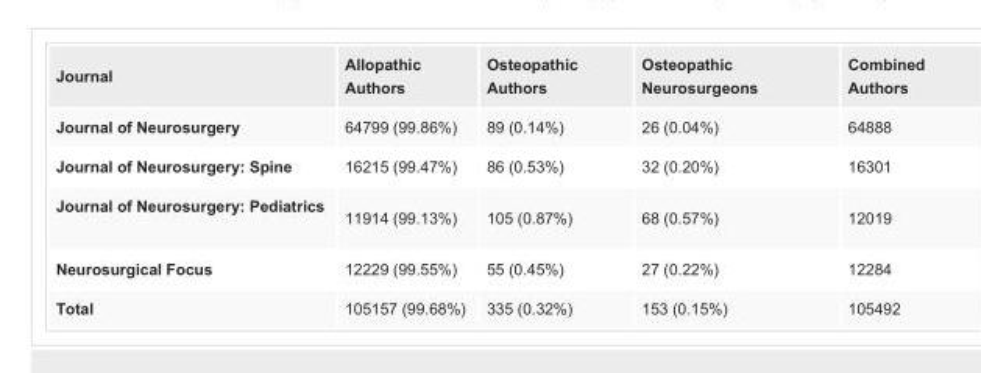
<table><tbody><tr><td>Journal</td><td>Allopathic Authors</td><td>Osteopathic Authors</td><td>Osteopathic Neurosurgeons</td><td>Combined Authors</td></tr><tr><td>Journal of Neurosurgery</td><td>64799 (99.86%)</td><td>89 (0.14%)</td><td>26 (0.04%)</td><td>64888</td></tr><tr><td>Journal of Neurosurgery: Spine</td><td>16215 (99.47%)</td><td>86 (0.53%)</td><td>32 (0.20%)</td><td>16301</td></tr><tr><td>Journal of Neurosurgery: Pediatrics</td><td>11914 (99.13%)</td><td>105 (0.87%)</td><td>68 (0.57%)</td><td>12019</td></tr><tr><td>Neurosurgical Focus</td><td>12229 (99.55%)</td><td>55 (0.45%)</td><td>27 (0.22%)</td><td>12284</td></tr><tr><td>Total</td><td>105157 (99.68%)</td><td>335 (0.32%)</td><td>153 (0.15%)</td><td>105492</td></tr></tbody></table>